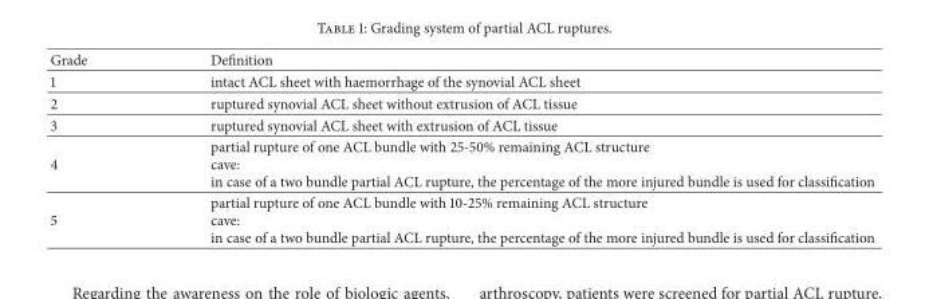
<table><thead><tr><td>Grade</td><td>Definition</td></tr></thead><tbody><tr><td>1</td><td>intact ACL sheet with haemorrhage of the synovial ACL sheet</td></tr><tr><td>2</td><td>ruptured synovial ACL sheet without extrusion of ACL tissue</td></tr><tr><td>3</td><td>ruptured synovial ACL sheet with extrusion of ACL tissue</td></tr><tr><td>4</td><td>partial rupture of one ACL bundle with 25-50% remaining ACL structure cave: in case of a two bundle partial ACL rupture, the percentage of the more injured bundle is used for classification</td></tr><tr><td>5</td><td>partial rupture of one ACL bundle with 10-25% remaining ACL structure cave: in case of a two bundle partial ACL rupture, the percentage of the more injured bundle is used for classification</td></tr></tbody></table>